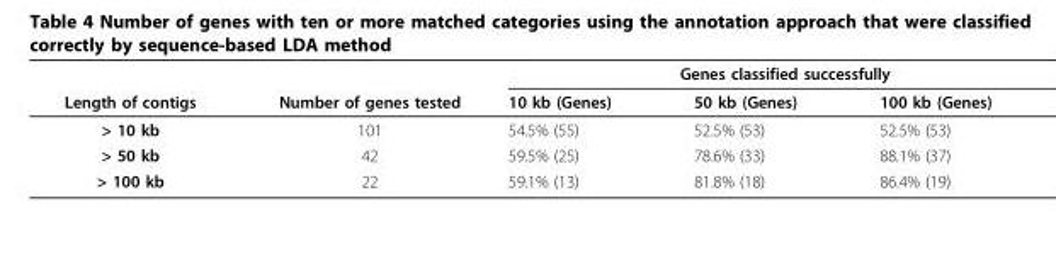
<table><thead><tr><td rowspan="2">Length of contigs</td><td rowspan="2">Number of genes tested</td><td colspan="3">Genes classified successfully</td></tr><tr><td>10 kb (Genes)</td><td>50 kb (Genes)</td><td>100 kb (Genes)</td></tr></thead><tbody><tr><td>&gt; 10 kb</td><td>101</td><td>54.5% (55)</td><td>52.5% (53)</td><td>52.5% (53)</td></tr><tr><td>&gt; 50 kb</td><td>42</td><td>59.5% (25)</td><td>78.6% (33)</td><td>88.1% (37)</td></tr><tr><td>&gt; 100 kb</td><td>22</td><td>59.1% (13)</td><td>81.8% (18)</td><td>86.4% (19)</td></tr></tbody></table>